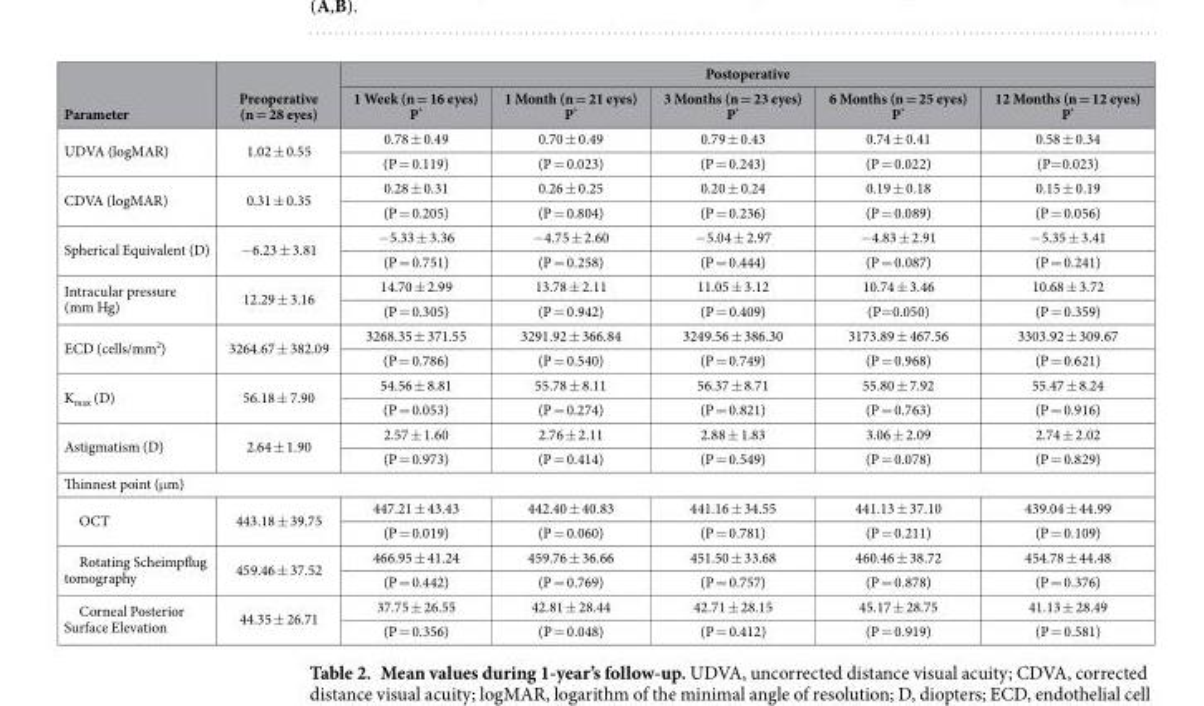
<table><thead><tr><td rowspan="2">Parameter</td><td rowspan="2">Preoperative (n = 28 eyes)</td><td colspan="5">Postoperative</td></tr><tr><td>1 Week (n = 16 eyes) P*</td><td>1 Month (n = 21 eyes) P*</td><td>3 Months (n = 23 eyes) P*</td><td>6 Months (n = 25 eyes) P*</td><td>12 Months (n = 12 eyes) P*</td></tr></thead><tbody><tr><td rowspan="2">UDVA (logMAR)</td><td rowspan="2">1.02 ± 0.55</td><td>0.78 ± 0.49</td><td>0.70 ± 0.49</td><td>0.79 ± 0.43</td><td>0.74 ± 0.41</td><td>0.58 ± 0.34</td></tr><tr><td>(P = 0.119)</td><td>(P = 0.023)</td><td>(P = 0.243)</td><td>(P = 0.022)</td><td>(P= 0.023)</td></tr><tr><td rowspan="2">CDVA (logMAR)</td><td rowspan="2">0.31 ± 0.35</td><td>0.28 ± 0.31</td><td>0.26 ± 0.25</td><td>0.20 ± 0.24</td><td>0.19 ± 0.18</td><td>0.15 ± 0.19</td></tr><tr><td>(P = 0.205)</td><td>(P = 0.804)</td><td>(P = 0.236)</td><td>(P = 0.089)</td><td>(P = 0.056)</td></tr><tr><td rowspan="2">Spherical Equivalent (D)</td><td rowspan="2">− 6.23 ± 3.81</td><td>− 5.33 ± 3.36</td><td>− 4.75 ± 2.60</td><td>− 5.04 ± 2.97</td><td>− 4.83 ± 2.91</td><td>− 5.35 ± 3.41</td></tr><tr><td>(P = 0.751)</td><td>(P = 0.258)</td><td>(P = 0.444)</td><td>(P = 0.087)</td><td>(P = 0.241)</td></tr><tr><td rowspan="2">Intracular pressure (mm Hg)</td><td rowspan="2">12.29 ± 3.16</td><td>14.70 ± 2.99</td><td>13.78 ± 2.11</td><td>11.05 ± 3.12</td><td>10.74 ± 3.46</td><td>10.68 ± 3.72</td></tr><tr><td>(P = 0.305)</td><td>(P = 0.942)</td><td>(P = 0.409)</td><td>(P= 0.050)</td><td>(P = 0.359)</td></tr><tr><td rowspan="2">ECD (cells/mm<sup>2</sup>)</td><td rowspan="2">3264.67 ± 382.09</td><td>3268.35 ± 371.55</td><td>3291.92 ± 366.84</td><td>3249.56 ± 386.30</td><td>3173.89 ± 467.56</td><td>3303.92 ± 309.67</td></tr><tr><td>(P = 0.786)</td><td>(P = 0.540)</td><td>(P = 0.749)</td><td>(P = 0.968)</td><td>(P = 0.621)</td></tr><tr><td rowspan="2">K<sub>max</sub> (D)</td><td rowspan="2">56.18 ± 7.90</td><td>54.56 ± 8.81</td><td>55.78 ± 8.11</td><td>56.37 ± 8.71</td><td>55.80 ± 7.92</td><td>55.47 ± 8.24</td></tr><tr><td>(P = 0.053)</td><td>(P = 0.274)</td><td>(P = 0.821)</td><td>(P = 0.763)</td><td>(P = 0.916)</td></tr><tr><td rowspan="2">Astigmatism (D)</td><td rowspan="2">2.64 ± 1.90</td><td>2.57 ± 1.60</td><td>2.76 ± 2.11</td><td>2.88 ± 1.83</td><td>3.06 ± 2.09</td><td>2.74 ± 2.02</td></tr><tr><td>(P = 0.973)</td><td>(P = 0.414)</td><td>(P = 0.549)</td><td>(P = 0.078)</td><td>(P = 0.829)</td></tr><tr><td colspan="7">Thinnest point (μ m)</td></tr><tr><td rowspan="2">OCT</td><td rowspan="2">443.18 ± 39.75</td><td>447.21 ± 43.43</td><td>442.40 ± 40.83</td><td>441.16 ± 34.55</td><td>441.13 ± 37.10</td><td>439.04 ± 44.99</td></tr><tr><td>(P = 0.019)</td><td>(P = 0.060)</td><td>(P = 0.781)</td><td>(P = 0.211)</td><td>(P = 0.109)</td></tr><tr><td rowspan="2">Rotating Scheimpflug tomography</td><td rowspan="2">459.46 ± 37.52</td><td>466.95 ± 41.24</td><td>459.76 ± 36.66</td><td>451.50 ± 33.68</td><td>460.46 ± 38.72</td><td>454.78 ± 44.48</td></tr><tr><td>(P = 0.442)</td><td>(P = 0.769)</td><td>(P = 0.757)</td><td>(P = 0.878)</td><td>(P = 0.376)</td></tr><tr><td rowspan="2">Corneal Posterior Surface Elevation</td><td rowspan="2">44.35 ± 26.71</td><td>37.75 ± 26.55</td><td>42.81 ± 28.44</td><td>42.71 ± 28.15</td><td>45.17 ± 28.75</td><td>41.13 ± 28.49</td></tr><tr><td>(P = 0.356)</td><td>(P = 0.048)</td><td>(P = 0.412)</td><td>(P = 0.919)</td><td>(P = 0.581)</td></tr></tbody></table>